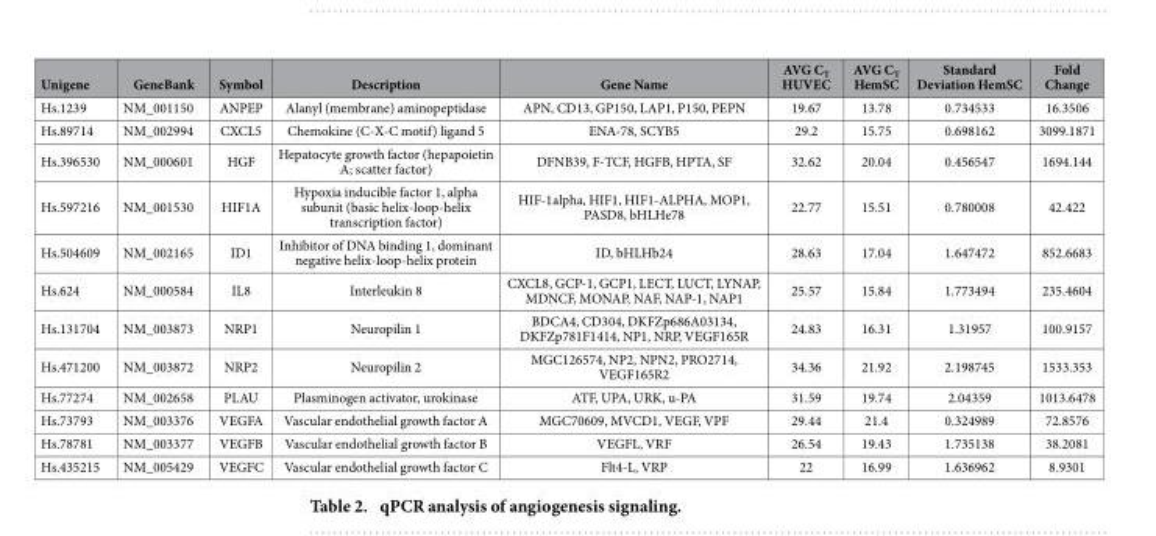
<table><thead><tr><td>Unigene</td><td>GeneBank</td><td>Symbol</td><td>Description</td><td>Gene Name</td><td>AVG C<sub>T</sub> HUVEC</td><td>AVG C<sub>T</sub> HemSC</td><td>Standard Deviation HemSC</td><td>Fold Change</td></tr></thead><tbody><tr><td>Hs.1239</td><td>NM_001150</td><td>ANPEP</td><td>Alanyl (membrane) aminopeptidase</td><td>APN, CD13, GP150, LAP1, P150, PEPN</td><td>19.67</td><td>13.78</td><td>0.734533</td><td>16.3506</td></tr><tr><td>Hs.89714</td><td>NM_002994</td><td>CXCL5</td><td>Chemokine (C-X-C motif) ligand 5</td><td>ENA-78, SCYB5</td><td>29.2</td><td>15.75</td><td>0.698162</td><td>3099.1871</td></tr><tr><td>Hs.396530</td><td>NM_000601</td><td>HGF</td><td>Hepatocyte growth factor (hepapoietin A; scatter factor)</td><td>DFNB39, F-TCF, HGFB, HPTA, SF</td><td>32.62</td><td>20.04</td><td>0.456547</td><td>1694.144</td></tr><tr><td>Hs.597216</td><td>NM_001530</td><td>HIF1A</td><td>Hypoxia inducible factor 1, alpha subunit (basic helix-loop-helix transcription factor)</td><td>HIF-1alpha, HIF1, HIF1-ALPHA, MOP1, PASD8, bHLHe78</td><td>22.77</td><td>15.51</td><td>0.780008</td><td>42.422</td></tr><tr><td>Hs.504609</td><td>NM_002165</td><td>ID1</td><td>Inhibitor of DNA binding 1, dominant negative helix-loop-helix protein</td><td>ID, bHLHb24</td><td>28.63</td><td>17.04</td><td>1.647472</td><td>852.6683</td></tr><tr><td>Hs.624</td><td>NM_000584</td><td>IL8</td><td>Interleukin 8</td><td>CXCL8, GCP-1, GCP1, LECT, LUCT, LYNAP, MDNCF, MONAP, NAF, NAP-1, NAP1</td><td>25.57</td><td>15.84</td><td>1.773494</td><td>235.4604</td></tr><tr><td>Hs.131704</td><td>NM_003873</td><td>NRP1</td><td>Neuropilin 1</td><td>BDCA4, CD304, DKFZp686A03134, DKFZp781F1414, NP1, NRP, VEGF165R</td><td>24.83</td><td>16.31</td><td>1.31957</td><td>100.9157</td></tr><tr><td>Hs.471200</td><td>NM_003872</td><td>NRP2</td><td>Neuropilin 2</td><td>MGC126574, NP2, NPN2, PRO2714, VEGF165R2</td><td>34.36</td><td>21.92</td><td>2.198745</td><td>1533.353</td></tr><tr><td>Hs.77274</td><td>NM_002658</td><td>PLAU</td><td>Plasminogen activator, urokinase</td><td>ATF, UPA, URK, u-PA</td><td>31.59</td><td>19.74</td><td>2.04359</td><td>1013.6478</td></tr><tr><td>Hs.73793</td><td>NM_003376</td><td>VEGFA</td><td>Vascular endothelial growth factor A</td><td>MGC70609, MVCD1, VEGF, VPF</td><td>29.44</td><td>21.4</td><td>0.324989</td><td>72.8576</td></tr><tr><td>Hs.78781</td><td>NM_003377</td><td>VEGFB</td><td>Vascular endothelial growth factor B</td><td>VEGFL, VRF</td><td>26.54</td><td>19.43</td><td>1.735138</td><td>38.2081</td></tr><tr><td>Hs.435215</td><td>NM_005429</td><td>VEGFC</td><td>Vascular endothelial growth factor C</td><td>Flt4-L, VRP</td><td>22</td><td>16.99</td><td>1.636962</td><td>8.9301</td></tr></tbody></table>